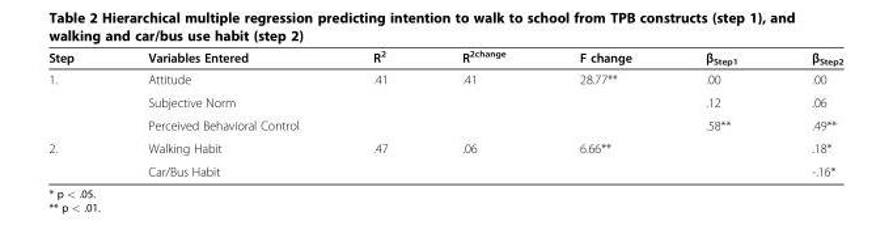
<table><thead><tr><td>Step</td><td>Variables Entered</td><td>R<sup>2</sup></td><td>R<sup>2change</sup></td><td>F change</td><td>β<sub>Step1</sub></td><td>β<sub>Step2</sub></td></tr></thead><tbody><tr><td rowspan="3">1.</td><td>Attitude</td><td>.41</td><td>.41</td><td>28.77**</td><td>.00</td><td>.00</td></tr><tr><td>Subjective Norm</td><td></td><td></td><td></td><td>.12</td><td>.06</td></tr><tr><td>Perceived Behavioral Control</td><td></td><td></td><td></td><td>.58**</td><td>.49**</td></tr><tr><td rowspan="2">2.</td><td>Walking Habit</td><td>.47</td><td>.06</td><td>6.66**</td><td></td><td>.18*</td></tr><tr><td>Car/Bus Habit</td><td></td><td></td><td></td><td></td><td>-.16*</td></tr></tbody></table>